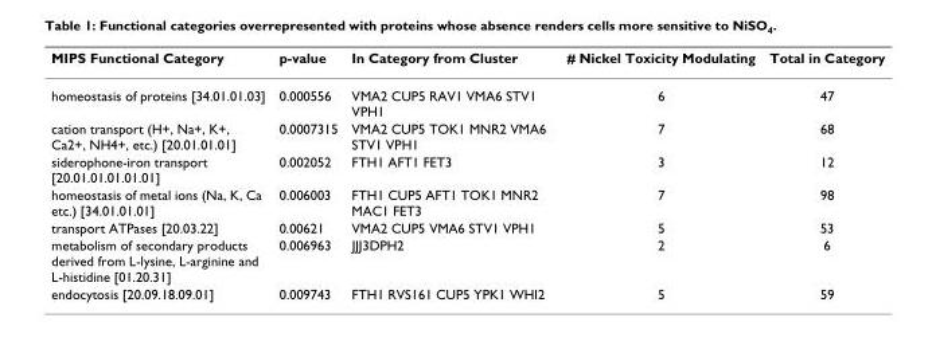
<table><thead><tr><td>MIPS Functional Category</td><td>p-value</td><td>In Category from Cluster</td><td># Nickel Toxicity Modulating</td><td>Total in Category</td></tr></thead><tbody><tr><td>homeostasis of proteins [34.01.01.03]</td><td>0.000556</td><td>VMA2 CUP5 RAV1 VMA6 STV1 VPH1</td><td>6</td><td>47</td></tr><tr><td>cation transport (H+, Na+, K+, Ca2+, NH4+, etc.) [20.01.01.01]</td><td>0.0007315</td><td>VMA2 CUP5 TOK1 MNR2 VMA6 STV1 VPH1</td><td>7</td><td>68</td></tr><tr><td>siderophone-iron transport [20.01.01.01.01.01]</td><td>0.002052</td><td>FTH1 AFT1 FET3</td><td>3</td><td>12</td></tr><tr><td>homeostasis of metal ions (Na, K, Ca etc.) [34.01.01.01]</td><td>0.006003</td><td>FTH1 CUP5 AFT1 TOK1 MNR2 MAC1 FET3</td><td>7</td><td>98</td></tr><tr><td>transport ATPases [20.03.22]</td><td>0.00621</td><td>VMA2 CUP5 VMA6 STV1 VPH1</td><td>5</td><td>53</td></tr><tr><td>metabolism of secondary products derived from L-lysine, L-arginine and L-histidine [01.20.31]</td><td>0.006963</td><td>JJJ3DPH2</td><td>2</td><td>6</td></tr><tr><td>endocytosis [20.09.18.09.01]</td><td>0.009743</td><td>FTH1 RVS161 CUP5 YPK1 WHI2</td><td>5</td><td>59</td></tr></tbody></table>